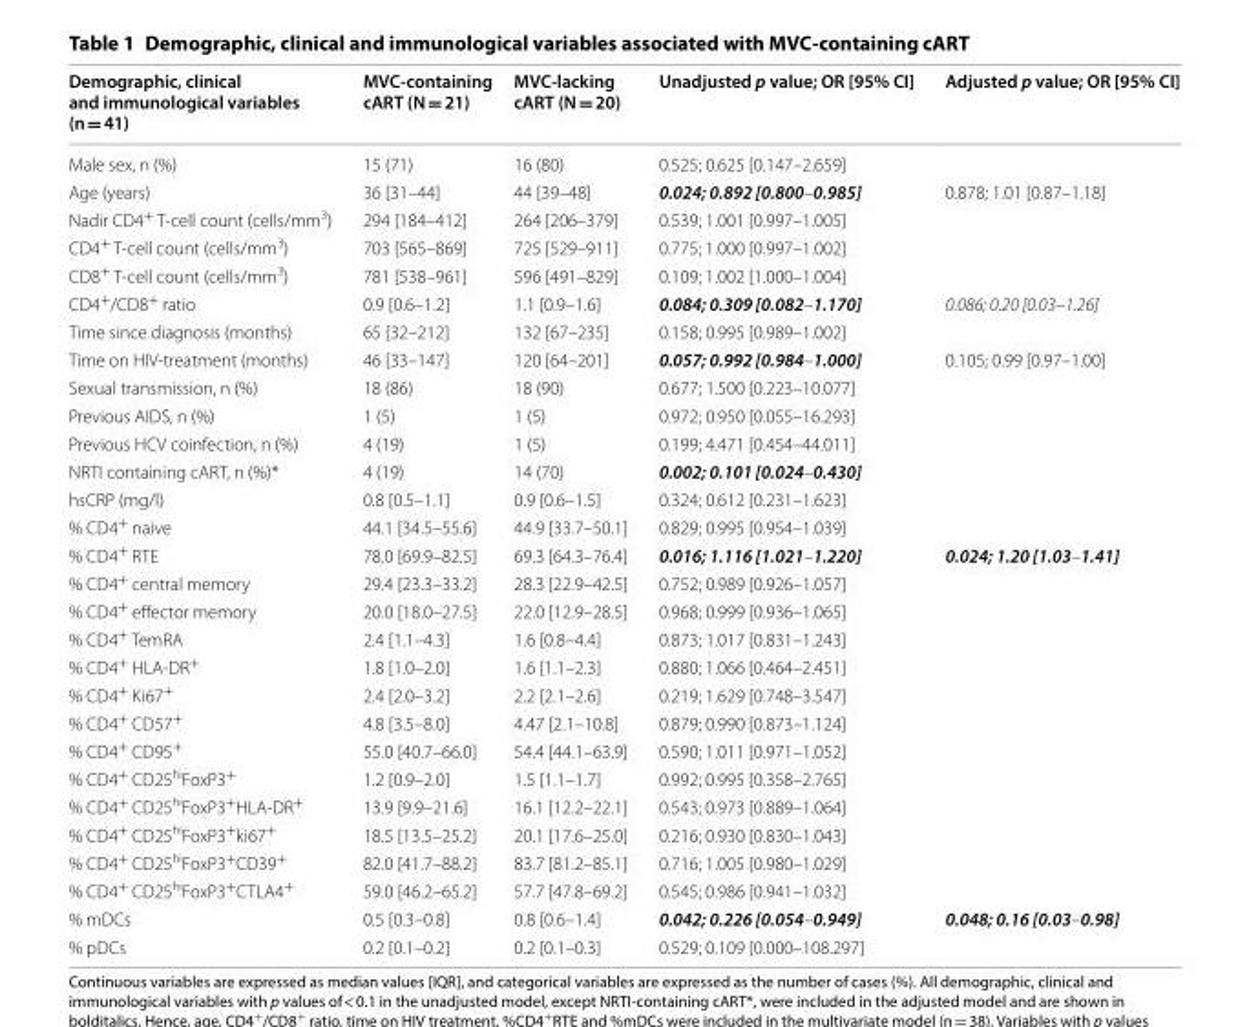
<table><thead><tr><td>Demographic, clinical and immunological variables (n = 41)</td><td>MVC‑containing cART (N = 21)</td><td>MVC‑lacking cART (N = 20)</td><td>Unadjusted p value; OR [95% CI]</td><td>Adjusted p value; OR [95% CI]</td></tr></thead><tbody><tr><td>Male sex, n (%)</td><td>15 (71)</td><td>16 (80)</td><td>0.525; 0.625 [0.147–2.659]</td><td></td></tr><tr><td>Age (years)</td><td>36 [31–44]</td><td>44 [39–48]</td><td>0.024; 0.892 [0.800–0.985]</td><td>0.878; 1.01 [0.87–1.18]</td></tr><tr><td>Nadir CD4<sup>+</sup> T‑cell count (cells/mm<sup>3</sup>)</td><td>294 [184–412]</td><td>264 [206–379]</td><td>0.539; 1.001 [0.997–1.005]</td><td></td></tr><tr><td>CD4<sup>+</sup> T‑cell count (cells/mm<sup>3</sup>)</td><td>703 [565–869]</td><td>725 [529–911]</td><td>0.775; 1.000 [0.997–1.002]</td><td></td></tr><tr><td>CD8<sup>+</sup> T‑cell count (cells/mm<sup>3</sup>)</td><td>781 [538–961]</td><td>596 [491–829]</td><td>0.109; 1.002 [1.000–1.004]</td><td></td></tr><tr><td>CD4<sup>+</sup>/CD8<sup>+</sup> ratio</td><td>0.9 [0.6–1.2]</td><td>1.1 [0.9–1.6]</td><td>0.084; 0.309 [0.082–1.170]</td><td>0.086; 0.20 [0.03–1.26]</td></tr><tr><td>Time since diagnosis (months)</td><td>65 [32–212]</td><td>132 [67–235]</td><td>0.158; 0.995 [0.989–1.002]</td><td></td></tr><tr><td>Time on HIV‑treatment (months)</td><td>46 [33–147]</td><td>120 [64–201]</td><td>0.057; 0.992 [0.984–1.000]</td><td>0.105; 0.99 [0.97–1.00]</td></tr><tr><td>Sexual transmission, n (%)</td><td>18 (86)</td><td>18 (90)</td><td>0.677; 1.500 [0.223–10.077]</td><td></td></tr><tr><td>Previous AIDS, n (%)</td><td>1 (5)</td><td>1 (5)</td><td>0.972; 0.950 [0.055–16.293]</td><td></td></tr><tr><td>Previous HCV coinfection, n (%)</td><td>4 (19)</td><td>1 (5)</td><td>0.199; 4.471 [0.454–44.011]</td><td></td></tr><tr><td>NRTI containing cART, n (%)*</td><td>4 (19)</td><td>14 (70)</td><td>0.002; 0.101 [0.024–0.430]</td><td></td></tr><tr><td>hsCRP (mg/l)</td><td>0.8 [0.5–1.1]</td><td>0.9 [0.6–1.5]</td><td>0.324; 0.612 [0.231–1.623]</td><td></td></tr><tr><td>% CD4<sup>+</sup> naive</td><td>44.1 [34.5–55.6]</td><td>44.9 [33.7–50.1]</td><td>0.829; 0.995 [0.954–1.039]</td><td></td></tr><tr><td>% CD4<sup>+</sup> RTE</td><td>78.0 [69.9–82.5]</td><td>69.3 [64.3–76.4]</td><td>0.016; 1.116 [1.021–1.220]</td><td>0.024; 1.20 [1.03–1.41]</td></tr><tr><td>% CD4<sup>+</sup> central memory</td><td>29.4 [23.3–33.2]</td><td>28.3 [22.9–42.5]</td><td>0.752; 0.989 [0.926–1.057]</td><td></td></tr><tr><td>% CD4<sup>+</sup> effector memory</td><td>20.0 [18.0–27.5]</td><td>22.0 [12.9–28.5]</td><td>0.968; 0.999 [0.936–1.065]</td><td></td></tr><tr><td>% CD4<sup>+</sup> TemRA</td><td>2.4 [1.1–4.3]</td><td>1.6 [0.8–4.4]</td><td>0.873; 1.017 [0.831–1.243]</td><td></td></tr><tr><td>% CD4<sup>+</sup> HLA‑DR<sup>+</sup></td><td>1.8 [1.0–2.0]</td><td>1.6 [1.1–2.3]</td><td>0.880; 1.066 [0.464–2.451]</td><td></td></tr><tr><td>% CD4<sup>+</sup> Ki67<sup>+</sup></td><td>2.4 [2.0–3.2]</td><td>2.2 [2.1–2.6]</td><td>0.219; 1.629 [0.748–3.547]</td><td></td></tr><tr><td>% CD4<sup>+</sup> CD57<sup>+</sup></td><td>4.8 [3.5–8.0]</td><td>4.47 [2.1–10.8]</td><td>0.879; 0.990 [0.873–1.124]</td><td></td></tr><tr><td>% CD4<sup>+</sup> CD95<sup>+</sup></td><td>55.0 [40.7–66.0]</td><td>54.4 [44.1–63.9]</td><td>0.590; 1.011 [0.971–1.052]</td><td></td></tr><tr><td>% CD4<sup>+</sup> CD25<sup>hi</sup>FoxP3<sup>+</sup></td><td>1.2 [0.9–2.0]</td><td>1.5 [1.1–1.7]</td><td>0.992; 0.995 [0.358–2.765]</td><td></td></tr><tr><td>% CD4<sup>+</sup> CD25<sup>hi</sup>FoxP3<sup>+</sup>HLA‑DR<sup>+</sup></td><td>13.9 [9.9–21.6]</td><td>16.1 [12.2–22.1]</td><td>0.543; 0.973 [0.889–1.064]</td><td></td></tr><tr><td>% CD4<sup>+</sup> CD25<sup>hi</sup>FoxP3<sup>+</sup>ki67<sup>+</sup></td><td>18.5 [13.5–25.2]</td><td>20.1 [17.6–25.0]</td><td>0.216; 0.930 [0.830–1.043]</td><td></td></tr><tr><td>% CD4<sup>+</sup> CD25<sup>hi</sup>FoxP3<sup>+</sup>CD39<sup>+</sup></td><td>82.0 [41.7–88.2]</td><td>83.7 [81.2–85.1]</td><td>0.716; 1.005 [0.980–1.029]</td><td></td></tr><tr><td>% CD4<sup>+</sup> CD25<sup>hi</sup>FoxP3<sup>+</sup>CTLA4<sup>+</sup></td><td>59.0 [46.2–65.2]</td><td>57.7 [47.8–69.2]</td><td>0.545; 0.986 [0.941–1.032]</td><td></td></tr><tr><td>% mDCs</td><td>0.5 [0.3–0.8]</td><td>0.8 [0.6–1.4]</td><td>0.042; 0.226 [0.054–0.949]</td><td>0.048; 0.16 [0.03–0.98]</td></tr><tr><td>% pDCs</td><td>0.2 [0.1–0.2]</td><td>0.2 [0.1–0.3]</td><td>0.529; 0.109 [0.000–108.297]</td><td></td></tr></tbody></table>